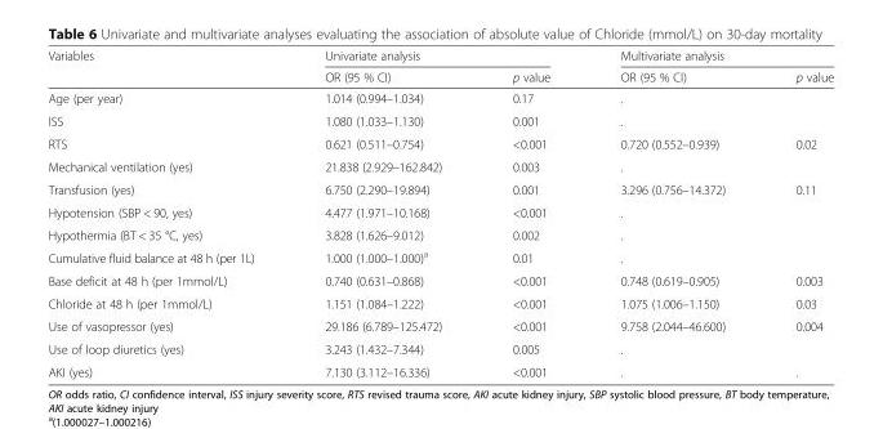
<table><thead><tr><td rowspan="2">Variables</td><td colspan="2">Univariate analysis</td><td colspan="2">Multivariate analysis</td></tr><tr><td>OR (95 % CI)</td><td>p value</td><td>OR (95 % CI)</td><td>p value</td></tr></thead><tbody><tr><td>Age (per year)</td><td>1.014 (0.994–1.034)</td><td>0.17</td><td>.</td><td></td></tr><tr><td>ISS</td><td>1.080 (1.033–1.130)</td><td>0.001</td><td>.</td><td></td></tr><tr><td>RTS</td><td>0.621 (0.511–0.754)</td><td>&lt;0.001</td><td>0.720 (0.552–0.939)</td><td>0.02</td></tr><tr><td>Mechanical ventilation (yes)</td><td>21.838 (2.929–162.842)</td><td>0.003</td><td>.</td><td></td></tr><tr><td>Transfusion (yes)</td><td>6.750 (2.290–19.894)</td><td>0.001</td><td>3.296 (0.756–14.372)</td><td>0.11</td></tr><tr><td>Hypotension (SBP &lt; 90, yes)</td><td>4.477 (1.971–10.168)</td><td>&lt;0.001</td><td>.</td><td></td></tr><tr><td>Hypothermia (BT &lt; 35 °C, yes)</td><td>3.828 (1.626–9.012)</td><td>0.002</td><td>.</td><td></td></tr><tr><td>Cumulative fluid balance at 48 h (per 1L)</td><td>1.000 (1.000–1.000)<sup>a</sup></td><td>0.01</td><td>.</td><td></td></tr><tr><td>Base deficit at 48 h (per 1mmol/L)</td><td>0.740 (0.631–0.868)</td><td>&lt;0.001</td><td>0.748 (0.619–0.905)</td><td>0.003</td></tr><tr><td>Chloride at 48 h (per 1mmol/L)</td><td>1.151 (1.084–1.222)</td><td>&lt;0.001</td><td>1.075 (1.006–1.150)</td><td>0.03</td></tr><tr><td>Use of vasopressor (yes)</td><td>29.186 (6.789–125.472)</td><td>&lt;0.001</td><td>9.758 (2.044–46.600)</td><td>0.004</td></tr><tr><td>Use of loop diuretics (yes)</td><td>3.243 (1.432–7.344)</td><td>0.005</td><td>.</td><td></td></tr><tr><td>AKI (yes)</td><td>7.130 (3.112–16.336)</td><td>&lt;0.001</td><td>.</td><td>.</td></tr></tbody></table>